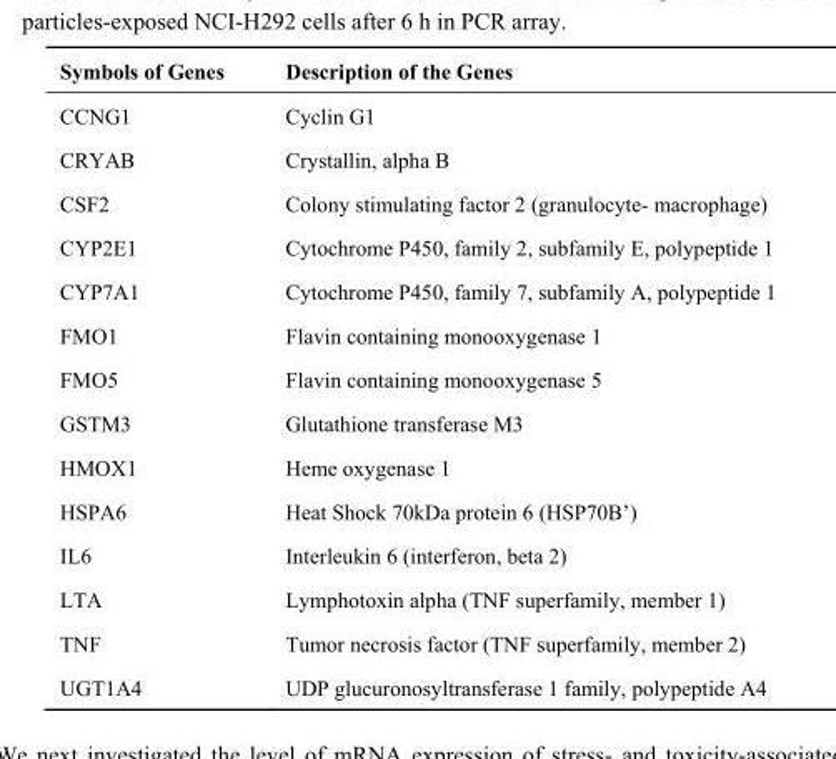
<table><thead><tr><td>Symbols of Genes</td><td>Description of the Genes</td></tr></thead><tbody><tr><td>CCNG1</td><td>Cyclin G1</td></tr><tr><td>CRYAB</td><td>Crystallin, alpha B</td></tr><tr><td>CSF2</td><td>Colony stimulating factor 2 (granulocyte- macrophage)</td></tr><tr><td>CYP2E1</td><td>Cytochrome P450, family 2, subfamily E, polypeptide 1</td></tr><tr><td>CYP7A1</td><td>Cytochrome P450, family 7, subfamily A, polypeptide 1</td></tr><tr><td>FMO1</td><td>Flavin containing monooxygenase 1</td></tr><tr><td>FMO5</td><td>Flavin containing monooxygenase 5</td></tr><tr><td>GSTM3</td><td>Glutathione transferase M3</td></tr><tr><td>HMOX1</td><td>Heme oxygenase 1</td></tr><tr><td>HSPA6</td><td>Heat Shock 70kDa protein 6 (HSP70B’)</td></tr><tr><td>IL6</td><td>Interleukin 6 (interferon, beta 2)</td></tr><tr><td>LTA</td><td>Lymphotoxin alpha (TNF superfamily, member 1)</td></tr><tr><td>TNF</td><td>Tumor necrosis factor (TNF superfamily, member 2)</td></tr><tr><td>UGT1A4</td><td>UDP glucuronosyltransferase 1 family, polypeptide A4</td></tr></tbody></table>